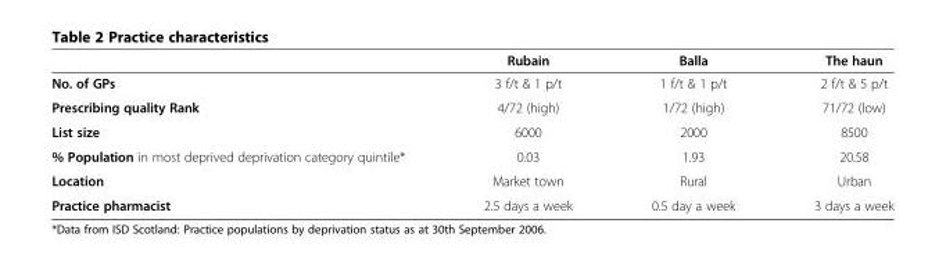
<table><thead><tr><td></td><td>Rubain</td><td>Balla</td><td>The haun</td></tr></thead><tbody><tr><td>No. of GPs</td><td>3 f/t &amp; 1 p/t</td><td>1 f/t &amp; 1 p/t</td><td>2 f/t &amp; 5 p/t</td></tr><tr><td>Prescribing quality Rank</td><td>4/72 (high)</td><td>1/72 (high)</td><td>71/72 (low)</td></tr><tr><td>List size</td><td>6000</td><td>2000</td><td>8500</td></tr><tr><td>% Population in most deprived deprivation category quintile*</td><td>0.03</td><td>1.93</td><td>20.58</td></tr><tr><td>Location</td><td>Market town</td><td>Rural</td><td>Urban</td></tr><tr><td>Practice pharmacist</td><td>2.5 days a week</td><td>0.5 day a week</td><td>3 days a week</td></tr></tbody></table>